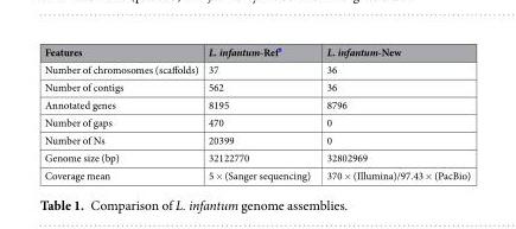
<table><thead><tr><td>Features</td><td>L. infantum-Ref<sup>8</sup></td><td>L. infantum-New</td></tr></thead><tbody><tr><td>Number of chromosomes (scaffolds)</td><td>37</td><td>36</td></tr><tr><td>Number of contigs</td><td>562</td><td>36</td></tr><tr><td>Annotated genes</td><td>8195</td><td>8796</td></tr><tr><td>Number of gaps</td><td>470</td><td>0</td></tr><tr><td>Number of Ns</td><td>20399</td><td>0</td></tr><tr><td>Genome size (bp)</td><td>32122770</td><td>32802969</td></tr><tr><td>Coverage mean</td><td>5 × (Sanger sequencing)</td><td>370 × (Illumina)/97.43 × (PacBio)</td></tr></tbody></table>